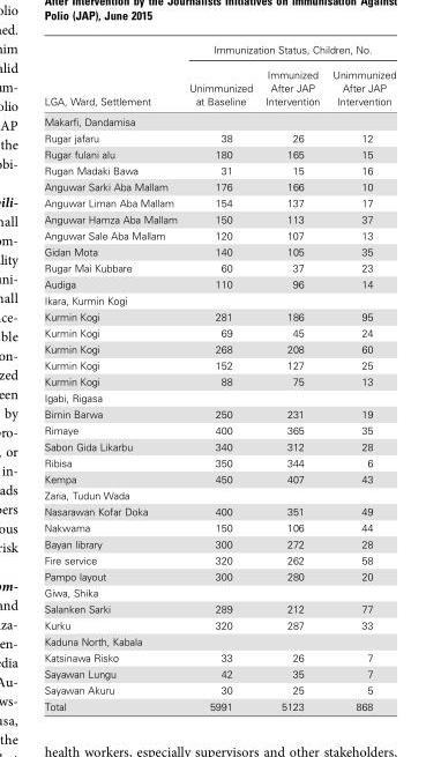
<table><thead><tr><td rowspan="2">LGA, Ward, Settlement</td><td colspan="3">Immunization Status, Children, No.</td></tr><tr><td>Unimmunized at Baseline</td><td>Immunized After JAP Intervention</td><td>Unimmunized After JAP Intervention</td></tr></thead><tbody><tr><td colspan="4">Makarfi, Dandamisa</td></tr><tr><td>Rugar jafaru</td><td>38</td><td>26</td><td>12</td></tr><tr><td>Rugar fulani alu</td><td>180</td><td>165</td><td>15</td></tr><tr><td>Rugan Madaki Bawa</td><td>31</td><td>15</td><td>16</td></tr><tr><td>Anguwar Sarki Aba Mallam</td><td>176</td><td>166</td><td>10</td></tr><tr><td>Anguwar Liman Aba Mallam</td><td>154</td><td>137</td><td>17</td></tr><tr><td>Anguwar Hamza Aba Mallam</td><td>150</td><td>113</td><td>37</td></tr><tr><td>Anguwar Sale Aba Mallam</td><td>120</td><td>107</td><td>13</td></tr><tr><td>Gidan Mota</td><td>140</td><td>105</td><td>35</td></tr><tr><td>Rugar Mai Kubbare</td><td>60</td><td>37</td><td>23</td></tr><tr><td>Audiga</td><td>110</td><td>96</td><td>14</td></tr><tr><td colspan="4">Ikara, Kurmin Kogi</td></tr><tr><td>Kurmin Kogi</td><td>281</td><td>186</td><td>95</td></tr><tr><td>Kurmin Kogi</td><td>69</td><td>45</td><td>24</td></tr><tr><td>Kurmin Kogi</td><td>268</td><td>208</td><td>60</td></tr><tr><td>Kurmin Kogi</td><td>152</td><td>127</td><td>25</td></tr><tr><td>Kurmin Kogi</td><td>88</td><td>75</td><td>13</td></tr><tr><td colspan="4">Igabi, Rigasa</td></tr><tr><td>Birnin Barwa</td><td>250</td><td>231</td><td>19</td></tr><tr><td>Rimaye</td><td>400</td><td>365</td><td>35</td></tr><tr><td>Sabon Gida Likarbu</td><td>340</td><td>312</td><td>28</td></tr><tr><td>Ribisa</td><td>350</td><td>344</td><td>6</td></tr><tr><td>Kempa</td><td>450</td><td>407</td><td>43</td></tr><tr><td colspan="4">Zaria, Tudun Wada</td></tr><tr><td>Nasarawan Kofar Doka</td><td>400</td><td>351</td><td>49</td></tr><tr><td>Nakwama</td><td>150</td><td>106</td><td>44</td></tr><tr><td>Bayan library</td><td>300</td><td>272</td><td>28</td></tr><tr><td>Fire service</td><td>320</td><td>262</td><td>58</td></tr><tr><td>Pampo layout</td><td>300</td><td>280</td><td>20</td></tr><tr><td colspan="4">Giwa, Shika</td></tr><tr><td>Salanken Sarki</td><td>289</td><td>212</td><td>77</td></tr><tr><td>Kurku</td><td>320</td><td>287</td><td>33</td></tr><tr><td colspan="4">Kaduna North, Kabala</td></tr><tr><td>Katsinawa Risko</td><td>33</td><td>26</td><td>7</td></tr><tr><td>Sayawan Lungu</td><td>42</td><td>35</td><td>7</td></tr><tr><td>Sayawan Akuru</td><td>30</td><td>25</td><td>5</td></tr><tr><td>Total</td><td>5991</td><td>5123</td><td>868</td></tr></tbody></table>